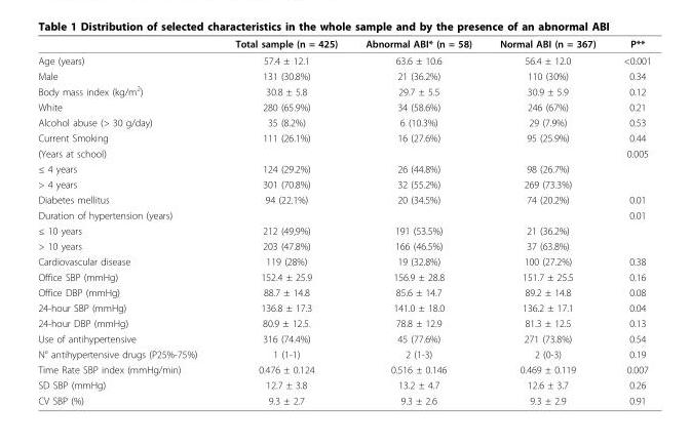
<table><thead><tr><td></td><td>Total sample (n = 425)</td><td>Abnormal ABI* (n = 58)</td><td>Normal ABI (n = 367)</td><td>P**</td></tr></thead><tbody><tr><td>Age (years)</td><td>57.4 ± 12.1</td><td>63.6 ± 10.6</td><td>56.4 ± 12.0</td><td>&lt;0.001</td></tr><tr><td>Male</td><td>131 (30.8%)</td><td>21 (36.2%)</td><td>110 (30%)</td><td>0.34</td></tr><tr><td>Body mass index (kg/m<sup>2</sup>)</td><td>30.8 ± 5.8</td><td>29.7 ± 5.5</td><td>30.9 ± 5.9</td><td>0.12</td></tr><tr><td>White</td><td>280 (65.9%)</td><td>34 (58.6%)</td><td>246 (67%)</td><td>0.21</td></tr><tr><td>Alcohol abuse (&gt; 30 g/day)</td><td>35 (8.2%)</td><td>6 (10.3%)</td><td>29 (7.9%)</td><td>0.53</td></tr><tr><td>Current Smoking</td><td>111 (26.1%)</td><td>16 (27.6%)</td><td>95 (25.9%)</td><td>0.44</td></tr><tr><td>(Years at school)</td><td></td><td></td><td></td><td>0.005</td></tr><tr><td>≤ 4 years</td><td>124 (29.2%)</td><td>26 (44.8%)</td><td>98 (26.7%)</td><td></td></tr><tr><td>&gt; 4 years</td><td>301 (70.8%)</td><td>32 (55.2%)</td><td>269 (73.3%)</td><td></td></tr><tr><td>Diabetes mellitus</td><td>94 (22.1%)</td><td>20 (34.5%)</td><td>74 (20.2%)</td><td>0.01</td></tr><tr><td>Duration of hypertension (years)</td><td></td><td></td><td></td><td>0.01</td></tr><tr><td>≤ 10 years</td><td>212 (49,9%)</td><td>191 (53.5%)</td><td>21 (36.2%)</td><td></td></tr><tr><td>&gt; 10 years</td><td>203 (47.8%)</td><td>166 (46.5%)</td><td>37 (63.8%)</td><td></td></tr><tr><td>Cardiovascular disease</td><td>119 (28%)</td><td>19 (32.8%)</td><td>100 (27.2%)</td><td>0.38</td></tr><tr><td>Office SBP (mmHg)</td><td>152.4 ± 25.9</td><td>156.9 ± 28.8</td><td>151.7 ± 25.5</td><td>0.16</td></tr><tr><td>Office DBP (mmHg)</td><td>88.7 ± 14.8</td><td>85.6 ± 14.7</td><td>89.2 ± 14.8</td><td>0.08</td></tr><tr><td>24-hour SBP (mmHg)</td><td>136.8 ± 17.3</td><td>141.0 ± 18.0</td><td>136.2 ± 17.1</td><td>0.04</td></tr><tr><td>24-hour DBP (mmHg)</td><td>80.9 ± 12.5.</td><td>78.8 ± 12.9</td><td>81.3 ± 12.5</td><td>0.13</td></tr><tr><td>Use of antihypertensive</td><td>316 (74.4%)</td><td>45 (77.6%)</td><td>271 (73.8%)</td><td>0.54</td></tr><tr><td>N° antihypertensive drugs (P25%-75%)</td><td>1 (1-1)</td><td>2 (1-3)</td><td>2 (0-3)</td><td>0.19</td></tr><tr><td>Time Rate SBP index (mmHg/min)</td><td>0.476 ± 0.124</td><td>0.516 ± 0.146</td><td>0.469 ± 0.119</td><td>0.007</td></tr><tr><td>SD SBP (mmHg)</td><td>12.7 ± 3.8</td><td>13.2 ± 4.7</td><td>12.6 ± 3.7</td><td>0.26</td></tr><tr><td>CV SBP (%)</td><td>9.3 ± 2.7</td><td>9.3 ± 2.6</td><td>9.3 ± 2.9</td><td>0.91</td></tr></tbody></table>